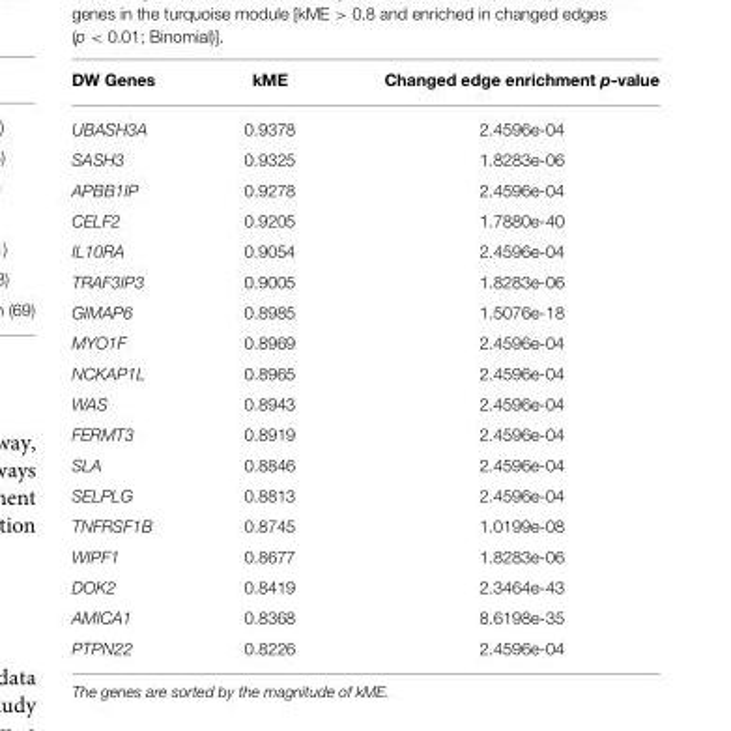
<table><thead><tr><td>DW Genes</td><td>kME</td><td>Changed edge enrichment p-value</td></tr></thead><tbody><tr><td>UBASH3A</td><td>0.9378</td><td>2.4596e-04</td></tr><tr><td>SASH3</td><td>0.9325</td><td>1.8283e-06</td></tr><tr><td>APBB1IP</td><td>0.9278</td><td>2.4596e-04</td></tr><tr><td>CELF2</td><td>0.9205</td><td>1.7880e-40</td></tr><tr><td>IL10RA</td><td>0.9054</td><td>2.4596e-04</td></tr><tr><td>TRAF3IP3</td><td>0.9005</td><td>1.8283e-06</td></tr><tr><td>GIMAP6</td><td>0.8985</td><td>1.5076e-18</td></tr><tr><td>MYO1F</td><td>0.8969</td><td>2.4596e-04</td></tr><tr><td>NCKAP1L</td><td>0.8965</td><td>2.4596e-04</td></tr><tr><td>WAS</td><td>0.8943</td><td>2.4596e-04</td></tr><tr><td>FERMT3</td><td>0.8919</td><td>2.4596e-04</td></tr><tr><td>SLA</td><td>0.8846</td><td>2.4596e-04</td></tr><tr><td>SELPLG</td><td>0.8813</td><td>2.4596e-04</td></tr><tr><td>TNFRSF1B</td><td>0.8745</td><td>1.0199e-08</td></tr><tr><td>WIPF1</td><td>0.8677</td><td>1.8283e-06</td></tr><tr><td>DOK2</td><td>0.8419</td><td>2.3464e-43</td></tr><tr><td>AMICA1</td><td>0.8368</td><td>8.6198e-35</td></tr><tr><td>PTPN22</td><td>0.8226</td><td>2.4596e-04</td></tr></tbody></table>